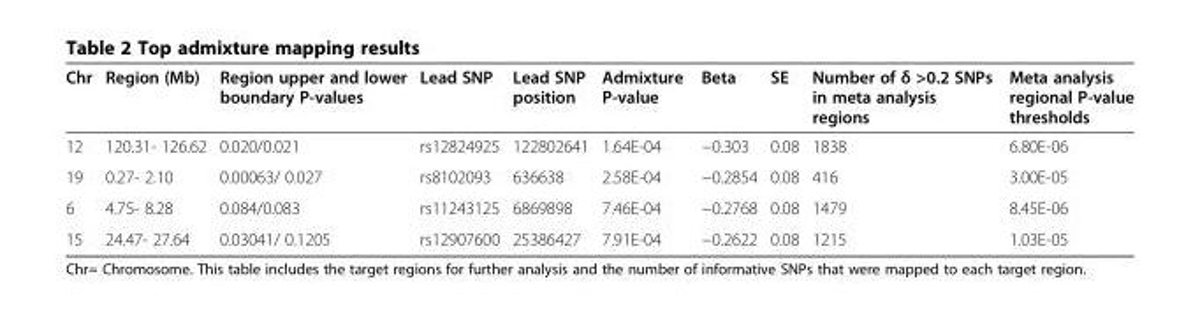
<table><thead><tr><td>Chr</td><td>Region (Mb)</td><td>Region upper and lower boundary P-values</td><td>Lead SNP</td><td>Lead SNP position</td><td>Admixture P-value</td><td>Beta</td><td>SE</td><td>Number of δ &gt;0.2 SNPs in meta analysis regions</td><td>Meta analysis regional P-value thresholds</td></tr></thead><tbody><tr><td>12</td><td>120.31- 126.62</td><td>0.020/0.021</td><td>rs12824925</td><td>122802641</td><td>1.64E-04</td><td>−0.303</td><td>0.08</td><td>1838</td><td>6.80E-06</td></tr><tr><td>19</td><td>0.27- 2.10</td><td>0.00063/ 0.027</td><td>rs8102093</td><td>636638</td><td>2.58E-04</td><td>−0.2854</td><td>0.08</td><td>416</td><td>3.00E-05</td></tr><tr><td>6</td><td>4.75- 8.28</td><td>0.084/0.083</td><td>rs11243125</td><td>6869898</td><td>7.46E-04</td><td>−0.2768</td><td>0.08</td><td>1479</td><td>8.45E-06</td></tr><tr><td>15</td><td>24.47- 27.64</td><td>0.03041/ 0.1205</td><td>rs12907600</td><td>25386427</td><td>7.91E-04</td><td>−0.2622</td><td>0.08</td><td>1215</td><td>1.03E-05</td></tr></tbody></table>